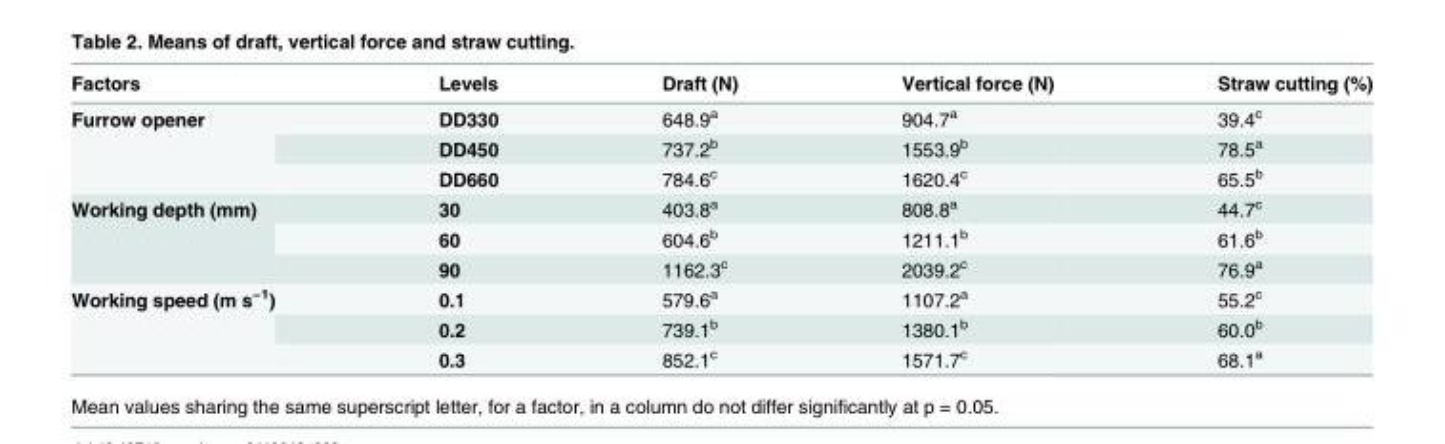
<table><thead><tr><td>Factors</td><td>Levels</td><td>Draft (N)</td><td>Vertical force (N)</td><td>Straw cutting (%)</td></tr></thead><tbody><tr><td rowspan="3">Furrow opener</td><td>DD330</td><td>648.9<sup>a</sup></td><td>904.7<sup>a</sup></td><td>39.4<sup>c</sup></td></tr><tr><td>DD450</td><td>737.2<sup>b</sup></td><td>1553.9<sup>b</sup></td><td>78.5<sup>a</sup></td></tr><tr><td>DD660</td><td>784.6<sup>c</sup></td><td>1620.4<sup>c</sup></td><td>65.5<sup>b</sup></td></tr><tr><td rowspan="3">Working depth (mm)</td><td>30</td><td>403.8<sup>a</sup></td><td>808.8<sup>a</sup></td><td>44.7<sup>c</sup></td></tr><tr><td>60</td><td>604.6<sup>b</sup></td><td>1211.1<sup>b</sup></td><td>61.6<sup>b</sup></td></tr><tr><td>90</td><td>1162.3<sup>c</sup></td><td>2039.2<sup>c</sup></td><td>76.9<sup>a</sup></td></tr><tr><td rowspan="3">Working speed (m s<sup>−1</sup>)</td><td>0.1</td><td>579.6<sup>a</sup></td><td>1107.2<sup>a</sup></td><td>55.2<sup>c</sup></td></tr><tr><td>0.2</td><td>739.1<sup>b</sup></td><td>1380.1<sup>b</sup></td><td>60.0<sup>b</sup></td></tr><tr><td>0.3</td><td>852.1<sup>c</sup></td><td>1571.7<sup>c</sup></td><td>68.1<sup>a</sup></td></tr></tbody></table>